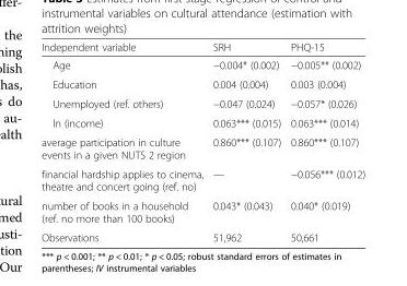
<table><thead><tr><td>Independent variable</td><td>SRH</td><td>PHQ-15</td></tr></thead><tbody><tr><td>Age</td><td>−0.004* (0.002)</td><td>−0.005** (0.002)</td></tr><tr><td>Education</td><td>0.004 (0.004)</td><td>0.003 (0.004)</td></tr><tr><td>Unemployed (ref. others)</td><td>−0.047 (0.024)</td><td>−0.057* (0.026)</td></tr><tr><td>ln (income)</td><td>0.063*** (0.015)</td><td>0.063*** (0.014)</td></tr><tr><td>average participation in culture events in a given NUTS 2 region</td><td>0.860*** (0.107)</td><td>0.860*** (0.107)</td></tr><tr><td>financial hardship applies to cinema, theatre and concert going (ref. no)</td><td>—</td><td>−0.056*** (0.012)</td></tr><tr><td>number of books in a household (ref. no more than 100 books)</td><td>0.043* (0.043)</td><td>0.040* (0.019)</td></tr><tr><td>Observations</td><td>51,962</td><td>50,661</td></tr></tbody></table>